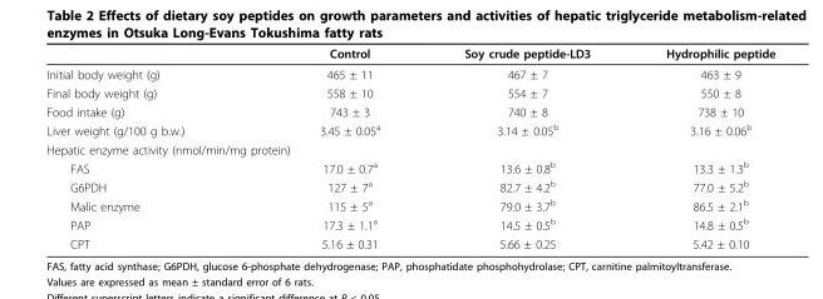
<table><thead><tr><td></td><td>Control</td><td>Soy crude peptide-LD3</td><td>Hydrophilic peptide</td></tr></thead><tbody><tr><td>Initial body weight (g)</td><td>465 ± 11</td><td>467 ± 7</td><td>463 ± 9</td></tr><tr><td>Final body weight (g)</td><td>558 ± 10</td><td>554 ± 7</td><td>550 ± 8</td></tr><tr><td>Food intake (g)</td><td>743 ± 3</td><td>740 ± 8</td><td>738 ± 10</td></tr><tr><td>Liver weight (g/100 g b.w.)</td><td>3.45 ± 0.05<sup>a</sup></td><td>3.14 ± 0.05<sup>b</sup></td><td>3.16 ± 0.06<sup>b</sup></td></tr><tr><td colspan="4">Hepatic enzyme activity (nmol/min/mg protein)</td></tr><tr><td>FAS</td><td>17.0 ± 0.7<sup>a</sup></td><td>13.6 ± 0.8<sup>b</sup></td><td>13.3 ± 1.3<sup>b</sup></td></tr><tr><td>G6PDH</td><td>127 ± 7<sup>a</sup></td><td>82.7 ± 4.2<sup>b</sup></td><td>77.0 ± 5.2<sup>b</sup></td></tr><tr><td>Malic enzyme</td><td>115 ± 5<sup>a</sup></td><td>79.0 ± 3.7<sup>b</sup></td><td>86.5 ± 2.1<sup>b</sup></td></tr><tr><td>PAP</td><td>17.3 ± 1.1<sup>a</sup></td><td>14.5 ± 0.5<sup>b</sup></td><td>14.8 ± 0.5<sup>b</sup></td></tr><tr><td>CPT</td><td>5.16 ± 0.31</td><td>5.66 ± 0.25</td><td>5.42 ± 0.10</td></tr></tbody></table>